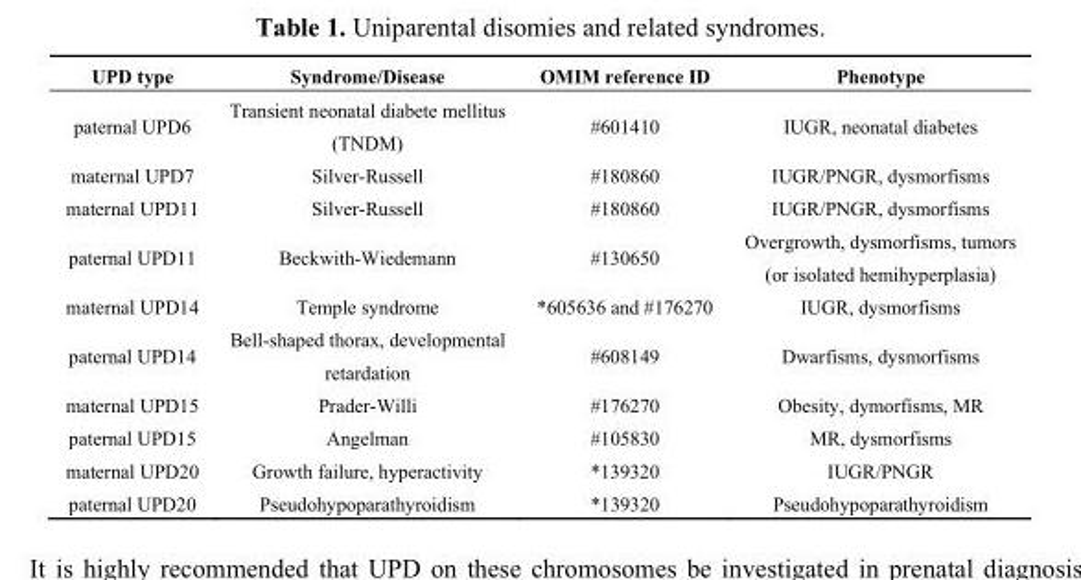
<table><thead><tr><td>UPD type</td><td>Syndrome/Disease</td><td>OMIM reference ID</td><td>Phenotype</td></tr></thead><tbody><tr><td>paternal UPD6</td><td>Transient neonatal diabete mellitus (TNDM)</td><td>#601410</td><td>IUGR, neonatal diabetes</td></tr><tr><td>maternal UPD7</td><td>Silver-Russell</td><td>#180860</td><td>IUGR/PNGR, dysmorfisms</td></tr><tr><td>maternal UPD11</td><td>Silver-Russell</td><td>#180860</td><td>IUGR/PNGR, dysmorfisms</td></tr><tr><td>paternal UPD11</td><td>Beckwith-Wiedemann</td><td>#130650</td><td>Overgrowth, dysmorfisms, tumors (or isolated hemihyperplasia)</td></tr><tr><td>maternal UPD14</td><td>Temple syndrome</td><td>*605636 and #176270</td><td>IUGR, dysmorfisms</td></tr><tr><td>paternal UPD14</td><td>Bell-shaped thorax, developmental retardation</td><td>#608149</td><td>Dwarfisms, dysmorfisms</td></tr><tr><td>maternal UPD15</td><td>Prader-Willi</td><td>#176270</td><td>Obesity, dymorfisms, MR</td></tr><tr><td>paternal UPD15</td><td>Angelman</td><td>#105830</td><td>MR, dysmorfisms</td></tr><tr><td>maternal UPD20</td><td>Growth failure, hyperactivity</td><td>*139320</td><td>IUGR/PNGR</td></tr><tr><td>paternal UPD20</td><td>Pseudohypoparathyroidism</td><td>*139320</td><td>Pseudohypoparathyroidism</td></tr></tbody></table>